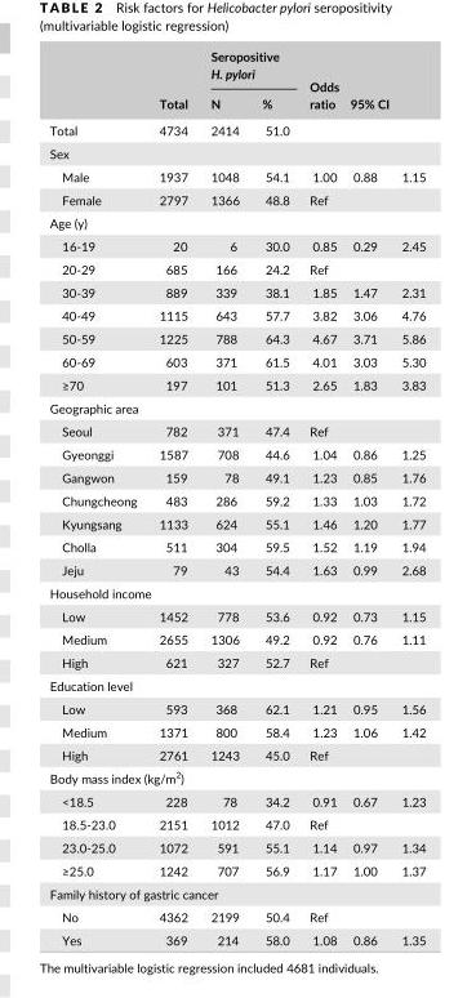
<table><thead><tr><td rowspan="3">Total</td><td rowspan="3">Total 4734</td><td colspan="2">Seropositive H. pylori</td><td rowspan="3">Odds ratio</td><td rowspan="2" colspan="2">95% CI</td></tr><tr><td rowspan="2">N 2414</td><td rowspan="2">% 51.0</td></tr><tr><td></td><td></td></tr></thead><tbody><tr><td colspan="7">Sex</td></tr><tr><td>Male</td><td>1937</td><td>1048</td><td>54.1</td><td>1.00</td><td>0.88</td><td>1.15</td></tr><tr><td>Female</td><td>2797</td><td>1366</td><td>48.8</td><td>Ref</td><td></td><td></td></tr><tr><td colspan="7">Age (y)</td></tr><tr><td>16- 19</td><td>20</td><td>6</td><td>30.0</td><td>0.85</td><td>0.29</td><td>2.45</td></tr><tr><td>20- 29</td><td>685</td><td>166</td><td>24.2</td><td>Ref</td><td></td><td></td></tr><tr><td>30- 39</td><td>889</td><td>339</td><td>38.1</td><td>1.85</td><td>1.47</td><td>2.31</td></tr><tr><td>40- 49</td><td>1115</td><td>643</td><td>57.7</td><td>3.82</td><td>3.06</td><td>4.76</td></tr><tr><td>50- 59</td><td>1225</td><td>788</td><td>64.3</td><td>4.67</td><td>3.71</td><td>5.86</td></tr><tr><td>60- 69</td><td>603</td><td>371</td><td>61.5</td><td>4.01</td><td>3.03</td><td>5.30</td></tr><tr><td>≥70</td><td>197</td><td>101</td><td>51.3</td><td>2.65</td><td>1.83</td><td>3.83</td></tr><tr><td colspan="7">Geographic area</td></tr><tr><td>Seoul</td><td>782</td><td>371</td><td>47.4</td><td>Ref</td><td></td><td></td></tr><tr><td>Gyeonggi</td><td>1587</td><td>708</td><td>44.6</td><td>1.04</td><td>0.86</td><td>1.25</td></tr><tr><td>Gangwon</td><td>159</td><td>78</td><td>49.1</td><td>1.23</td><td>0.85</td><td>1.76</td></tr><tr><td>Chungcheong</td><td>483</td><td>286</td><td>59.2</td><td>1.33</td><td>1.03</td><td>1.72</td></tr><tr><td>Kyungsang</td><td>1133</td><td>624</td><td>55.1</td><td>1.46</td><td>1.20</td><td>1.77</td></tr><tr><td>Cholla</td><td>511</td><td>304</td><td>59.5</td><td>1.52</td><td>1.19</td><td>1.94</td></tr><tr><td>Jeju</td><td>79</td><td>43</td><td>54.4</td><td>1.63</td><td>0.99</td><td>2.68</td></tr><tr><td colspan="7">Household income</td></tr><tr><td>Low</td><td>1452</td><td>778</td><td>53.6</td><td>0.92</td><td>0.73</td><td>1.15</td></tr><tr><td>Medium</td><td>2655</td><td>1306</td><td>49.2</td><td>0.92</td><td>0.76</td><td>1.11</td></tr><tr><td>High</td><td>621</td><td>327</td><td>52.7</td><td>Ref</td><td></td><td></td></tr><tr><td colspan="7">Education level</td></tr><tr><td>Low</td><td>593</td><td>368</td><td>62.1</td><td>1.21</td><td>0.95</td><td>1.56</td></tr><tr><td>Medium</td><td>1371</td><td>800</td><td>58.4</td><td>1.23</td><td>1.06</td><td>1.42</td></tr><tr><td>High</td><td>2761</td><td>1243</td><td>45.0</td><td>Ref</td><td></td><td></td></tr><tr><td colspan="7">Body mass index (kg/m<sup>2</sup>)</td></tr><tr><td>&lt;18.5</td><td>228</td><td>78</td><td>34.2</td><td>0.91</td><td>0.67</td><td>1.23</td></tr><tr><td>18.5- 23.0</td><td>2151</td><td>1012</td><td>47.0</td><td>Ref</td><td></td><td></td></tr><tr><td>23.0- 25.0</td><td>1072</td><td>591</td><td>55.1</td><td>1.14</td><td>0.97</td><td>1.34</td></tr><tr><td>≥25.0</td><td>1242</td><td>707</td><td>56.9</td><td>1.17</td><td>1.00</td><td>1.37</td></tr><tr><td colspan="7">Family history of gastric cancer</td></tr><tr><td>No</td><td>4362</td><td>2199</td><td>50.4</td><td>Ref</td><td></td><td></td></tr><tr><td>Yes</td><td>369</td><td>214</td><td>58.0</td><td>1.08</td><td>0.86</td><td>1.35</td></tr></tbody></table>